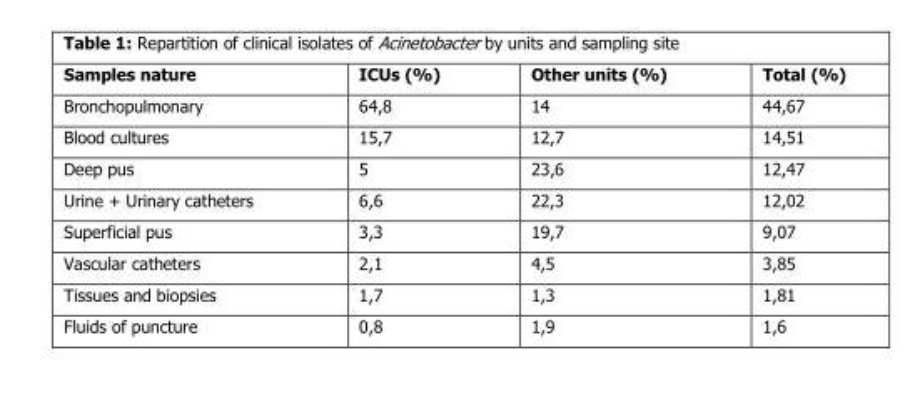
<table><thead><tr><td>Samples nature</td><td>ICUs (%)</td><td>Other units (%)</td><td>Total (%)</td></tr></thead><tbody><tr><td>Bronchopulmonary</td><td>64,8</td><td>14</td><td>44,67</td></tr><tr><td>Blood cultures</td><td>15,7</td><td>12,7</td><td>14,51</td></tr><tr><td>Deep pus</td><td>5</td><td>23,6</td><td>12,47</td></tr><tr><td>Urine + Urinary catheters</td><td>6,6</td><td>22,3</td><td>12,02</td></tr><tr><td>Superficial pus</td><td>3,3</td><td>19,7</td><td>9,07</td></tr><tr><td>Vascular catheters</td><td>2,1</td><td>4,5</td><td>3,85</td></tr><tr><td>Tissues and biopsies</td><td>1,7</td><td>1,3</td><td>1,81</td></tr><tr><td>Fluids of puncture</td><td>0,8</td><td>1,9</td><td>1,6</td></tr></tbody></table>